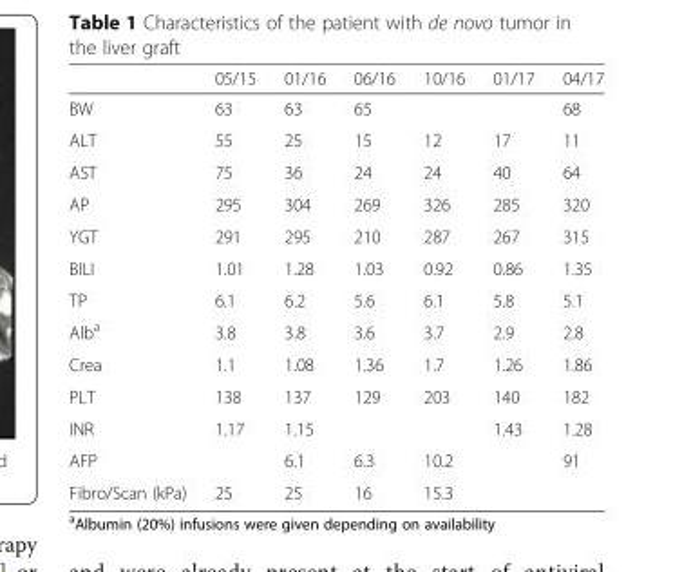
<table><thead><tr><td></td><td>05/15</td><td>01/16</td><td>06/16</td><td>10/16</td><td>01/17</td><td>04/17</td></tr></thead><tbody><tr><td>BW</td><td>63</td><td>63</td><td>65</td><td></td><td></td><td>68</td></tr><tr><td>ALT</td><td>55</td><td>25</td><td>15</td><td>12</td><td>17</td><td>11</td></tr><tr><td>AST</td><td>75</td><td>36</td><td>24</td><td>24</td><td>40</td><td>64</td></tr><tr><td>AP</td><td>295</td><td>304</td><td>269</td><td>326</td><td>285</td><td>320</td></tr><tr><td>YGT</td><td>291</td><td>295</td><td>210</td><td>287</td><td>267</td><td>315</td></tr><tr><td>BILI</td><td>1.01</td><td>1.28</td><td>1.03</td><td>0.92</td><td>0.86</td><td>1.35</td></tr><tr><td>TP</td><td>6.1</td><td>6.2</td><td>5.6</td><td>6.1</td><td>5.8</td><td>5.1</td></tr><tr><td>Alb<sup>a</sup></td><td>3.8</td><td>3.8</td><td>3.6</td><td>3.7</td><td>2.9</td><td>2.8</td></tr><tr><td>Crea</td><td>1.1</td><td>1.08</td><td>1.36</td><td>1.7</td><td>1.26</td><td>1.86</td></tr><tr><td>PLT</td><td>138</td><td>137</td><td>129</td><td>203</td><td>140</td><td>182</td></tr><tr><td>INR</td><td>1.17</td><td>1.15</td><td></td><td></td><td>1.43</td><td>1.28</td></tr><tr><td>AFP</td><td></td><td>6.1</td><td>6.3</td><td>10.2</td><td></td><td>91</td></tr><tr><td>Fibro/Scan (kPa)</td><td>25</td><td>25</td><td>16</td><td>15.3</td><td></td><td></td></tr></tbody></table>